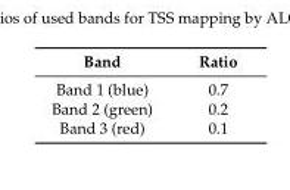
<table><thead><tr><td>Band</td><td>Ratio</td></tr></thead><tbody><tr><td>Band 1 (blue)</td><td>0.7</td></tr><tr><td>Band 2 (green)</td><td>0.2</td></tr><tr><td>Band 3 (red)</td><td>0.1</td></tr></tbody></table>